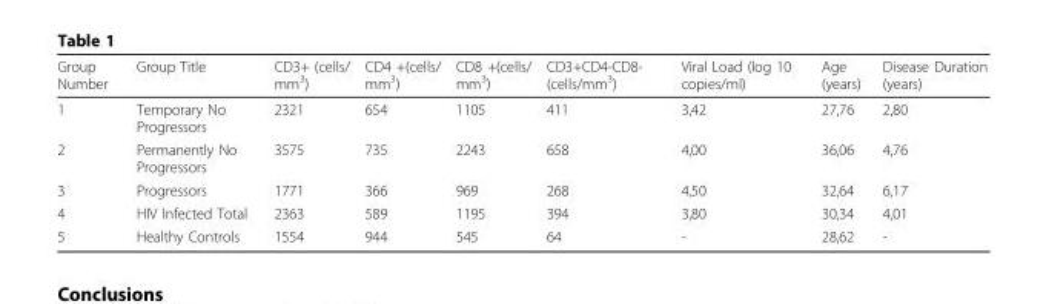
<table><thead><tr><td>Group Number</td><td>Group Title</td><td>CD3+ (cells/ mm<sup>3</sup>)</td><td>CD4 +(cells/ mm<sup>3</sup>)</td><td>CD8 +(cells/ mm<sup>3</sup>)</td><td>CD3+CD4-CD8- (cells/mm<sup>3</sup>)</td><td>Viral Load (log 10 copies/ml)</td><td>Age (years)</td><td>Disease Duration (years)</td></tr></thead><tbody><tr><td>1</td><td>Temporary No Progressors</td><td>2321</td><td>654</td><td>1105</td><td>411</td><td>3,42</td><td>27,76</td><td>2,80</td></tr><tr><td>2</td><td>Permanently No Progressors</td><td>3575</td><td>735</td><td>2243</td><td>658</td><td>4,00</td><td>36,06</td><td>4,76</td></tr><tr><td>3</td><td>Progressors</td><td>1771</td><td>366</td><td>969</td><td>268</td><td>4,50</td><td>32,64</td><td>6,17</td></tr><tr><td>4</td><td>HIV Infected Total</td><td>2363</td><td>589</td><td>1195</td><td>394</td><td>3,80</td><td>30,34</td><td>4,01</td></tr><tr><td>5</td><td>Healthy Controls</td><td>1554</td><td>944</td><td>545</td><td>64</td><td>-</td><td>28,62</td><td>-</td></tr></tbody></table>